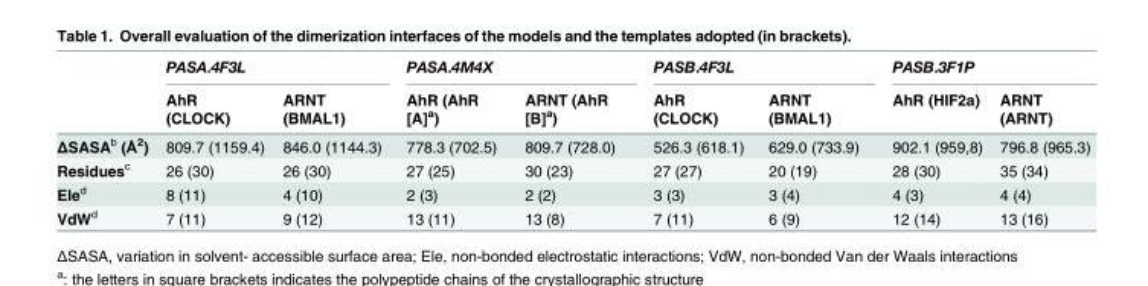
<table><thead><tr><td rowspan="2"></td><td colspan="2">PASA.4F3L</td><td colspan="2">PASA.4M4X</td><td colspan="2">PASB.4F3L</td><td colspan="2">PASB.3F1P</td></tr><tr><td>AhR (CLOCK)</td><td>ARNT (BMAL1)</td><td>AhR (AhR [A]<sup>a</sup>)</td><td>ARNT (AhR [B]<sup>a</sup>)</td><td>AhR (CLOCK)</td><td>ARNT (BMAL1)</td><td>AhR (HIF2a)</td><td>ARNT (ARNT)</td></tr></thead><tbody><tr><td>ΔSASA<sup>b</sup> (Å<sup>2</sup>)</td><td>809.7 (1159.4)</td><td>846.0 (1144.3)</td><td>778.3 (702.5)</td><td>809.7 (728.0)</td><td>526.3 (618.1)</td><td>629.0 (733.9)</td><td>902.1 (959,8)</td><td>796.8 (965.3)</td></tr><tr><td>Residues<sup>c</sup></td><td>26 (30)</td><td>26 (30)</td><td>27 (25)</td><td>30 (23)</td><td>27 (27)</td><td>20 (19)</td><td>28 (30)</td><td>35 (34)</td></tr><tr><td>Ele<sup>d</sup></td><td>8 (11)</td><td>4 (10)</td><td>2 (3)</td><td>2 (2)</td><td>3 (3)</td><td>3 (4)</td><td>4 (3)</td><td>4 (4)</td></tr><tr><td>VdW<sup>d</sup></td><td>7 (11)</td><td>9 (12)</td><td>13 (11)</td><td>13 (8)</td><td>7 (11)</td><td>6 (9)</td><td>12 (14)</td><td>13 (16)</td></tr></tbody></table>